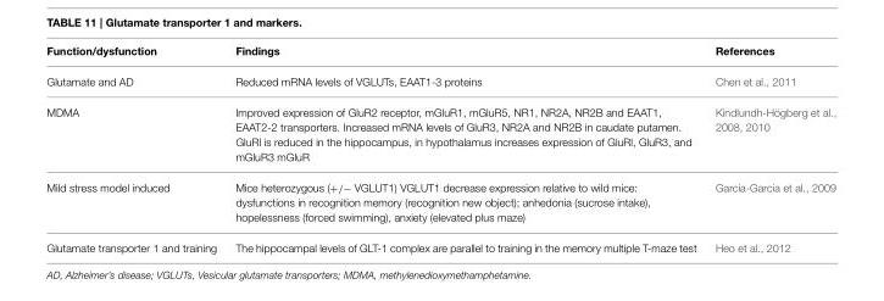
<table><thead><tr><td>Function/dysfunction</td><td>Findings</td><td>References</td></tr></thead><tbody><tr><td>Glutamate and AD</td><td>Reduced mRNA levels of VGLUTs, EAAT1-3 proteins</td><td>Chen et al., 2011</td></tr><tr><td>MDMA</td><td>Improved expression of GluR2 receptor, mGluR1, mGluR5, NR1, NR2A, NR2B and EAAT1, EAAT2-2 transporters. Increased mRNA levels of GluR3, NR2A and NR2B in caudate putamen. GluRl is reduced in the hippocampus, in hypothalamus increases expression of GluRl, GluR3, and mGluR3 mGluR</td><td>Kindlundh-Högberg et al., 2008, 2010</td></tr><tr><td>Mild stress model induced</td><td>Mice heterozygous (+/− VGLUT1) VGLUT1 decrease expression relative to wild mice: dysfunctions in recognition memory (recognition new object); anhedonia (sucrose intake), hopelessness (forced swimming), anxiety (elevated plus maze)</td><td>Garcia-Garcia et al., 2009</td></tr><tr><td>Glutamate transporter 1 and training</td><td>The hippocampal levels of GLT-1 complex are parallel to training in the memory multiple T-maze test</td><td>Heo et al., 2012</td></tr></tbody></table>